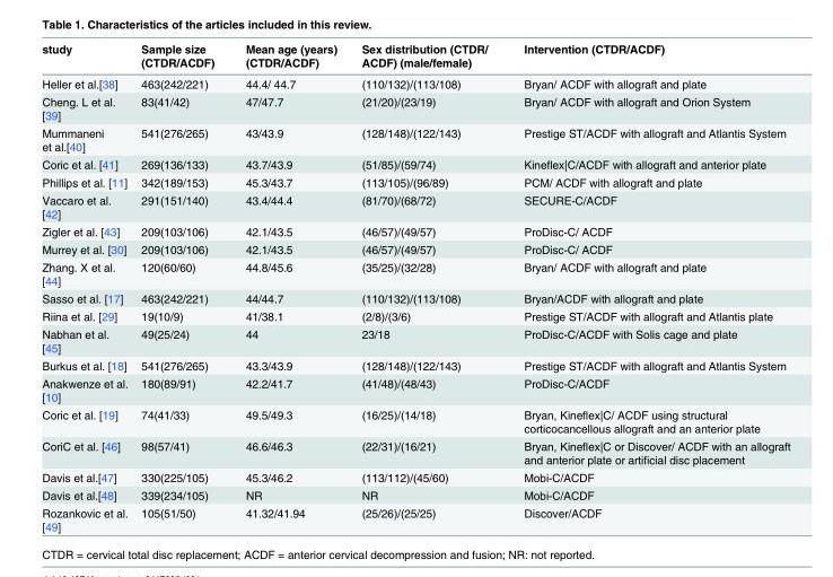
<table><thead><tr><td>study</td><td>Sample size (CTDR/ACDF)</td><td>Mean age (years) (CTDR/ACDF)</td><td>Sex distribution (CTDR/ ACDF) (male/female)</td><td>Intervention (CTDR/ACDF)</td></tr></thead><tbody><tr><td>Heller et al.[38]</td><td>463(242/221)</td><td>44.4/ 44.7</td><td>(110/132)/(113/108)</td><td>Bryan/ ACDF with allograft and plate</td></tr><tr><td>Cheng. L et al. [39]</td><td>83(41/42)</td><td>47/47.7</td><td>(21/20)/(23/19)</td><td>Bryan/ ACDF with allograft and Orion System</td></tr><tr><td>Mummaneni et al.[40]</td><td>541(276/265)</td><td>43/43.9</td><td>(128/148)/(122/143)</td><td>Prestige ST/ACDF with allograft and Atlantis System</td></tr><tr><td>Coric et al. [41]</td><td>269(136/133)</td><td>43.7/43.9</td><td>(51/85)/(59/74)</td><td>Kineflex|C/ACDF with allograft and anterior plate</td></tr><tr><td>Phillips et al. [11]</td><td>342(189/153)</td><td>45.3/43.7</td><td>(113/105)/(96/89)</td><td>PCM/ ACDF with allograft and plate</td></tr><tr><td>Vaccaro et al. [42]</td><td>291(151/140)</td><td>43.4/44.4</td><td>(81/70)/(68/72)</td><td>SECURE-C/ACDF</td></tr><tr><td>Zigler et al. [43]</td><td>209(103/106)</td><td>42.1/43.5</td><td>(46/57)/(49/57)</td><td>ProDisc-C/ ACDF</td></tr><tr><td>Murrey et al. [30]</td><td>209(103/106)</td><td>42.1/43.5</td><td>(46/57)/(49/57)</td><td>ProDisc-C/ ACDF</td></tr><tr><td>Zhang. X et al. [44]</td><td>120(60/60)</td><td>44.8/45.6</td><td>(35/25)/(32/28)</td><td>Bryan/ ACDF with allograft and plate</td></tr><tr><td>Sasso et al. [17]</td><td>463(242/221)</td><td>44/44.7</td><td>(110/132)/(113/108)</td><td>Bryan/ACDF with allograft and plate</td></tr><tr><td>Riina et al. [29]</td><td>19(10/9)</td><td>41/38.1</td><td>(2/8)/(3/6)</td><td>Prestige ST/ACDF with allograft and Atlantis plate</td></tr><tr><td>Nabhan et al. [45]</td><td>49(25/24)</td><td>44</td><td>23/18</td><td>ProDisc-C/ACDF with Solis cage and plate</td></tr><tr><td>Burkus et al. [18]</td><td>541(276/265)</td><td>43.3/43.9</td><td>(128/148)/(122/143)</td><td>Prestige ST/ACDF with allograft and Atlantis System</td></tr><tr><td>Anakwenze et al. [10]</td><td>180(89/91)</td><td>42.2/41.7</td><td>(41/48)/(48/43)</td><td>ProDisc-C/ACDF</td></tr><tr><td>Coric et al. [19]</td><td>74(41/33)</td><td>49.5/49.3</td><td>(16/25)/(14/18)</td><td>Bryan, Kineflex|C/ ACDF using structural corticocancellous allograft and an anterior plate</td></tr><tr><td>CoriC et al. [46]</td><td>98(57/41)</td><td>46.6/46.3</td><td>(22/31)/(16/21)</td><td>Bryan, Kineflex|C or Discover/ ACDF with an allograft and anterior plate or artificial disc placement</td></tr><tr><td>Davis et al.[47]</td><td>330(225/105)</td><td>45.3/46.2</td><td>(113/112)/(45/60)</td><td>Mobi-C/ACDF</td></tr><tr><td>Davis et al.[48]</td><td>339(234/105)</td><td>NR</td><td>NR</td><td>Mobi-C/ACDF</td></tr><tr><td>Rozankovic et al. [49]</td><td>105(51/50)</td><td>41.32/41.94</td><td>(25/26)/(25/25)</td><td>Discover/ACDF</td></tr></tbody></table>